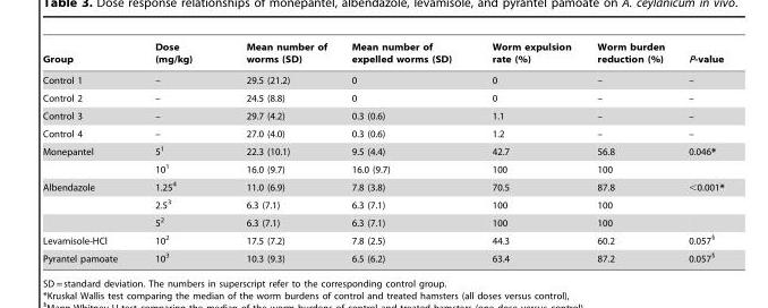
<table><thead><tr><td>Group</td><td>Dose (mg/kg)</td><td>Mean number of worms (SD)</td><td>Mean number of expelled worms (SD)</td><td>Worm expulsion rate (%)</td><td>Worm burden reduction (%)</td><td>P-value</td></tr></thead><tbody><tr><td>Control 1</td><td>–</td><td>29.5 (21.2)</td><td>0</td><td>0</td><td>–</td><td>–</td></tr><tr><td>Control 2</td><td>–</td><td>24.5 (8.8)</td><td>0</td><td>0</td><td>–</td><td>–</td></tr><tr><td>Control 3</td><td>–</td><td>29.7 (4.2)</td><td>0.3 (0.6)</td><td>1.1</td><td>–</td><td>–</td></tr><tr><td>Control 4</td><td>–</td><td>27.0 (4.0)</td><td>0.3 (0.6)</td><td>1.2</td><td>–</td><td>–</td></tr><tr><td rowspan="2">Monepantel</td><td>5<sup>1</sup></td><td>22.3 (10.1)</td><td>9.5 (4.4)</td><td>42.7</td><td>56.8</td><td>0.046*</td></tr><tr><td>10<sup>1</sup></td><td>16.0 (9.7)</td><td>16.0 (9.7)</td><td>100</td><td>100</td><td></td></tr><tr><td rowspan="3">Albendazole</td><td>1.25<sup>4</sup></td><td>11.0 (6.9)</td><td>7.8 (3.8)</td><td>70.5</td><td>87.8</td><td>&lt;0.001*</td></tr><tr><td>2.5<sup>3</sup></td><td>6.3 (7.1)</td><td>6.3 (7.1)</td><td>100</td><td>100</td><td></td></tr><tr><td>5<sup>2</sup></td><td>6.3 (7.1)</td><td>6.3 (7.1)</td><td>100</td><td>100</td><td></td></tr><tr><td>Levamisole-HCl</td><td>10<sup>2</sup></td><td>17.5 (7.2)</td><td>7.8 (2.5)</td><td>44.3</td><td>60.2</td><td>0.057§</td></tr><tr><td>Pyrantel pamoate</td><td>10<sup>3</sup></td><td>10.3 (9.3)</td><td>6.5 (6.2)</td><td>63.4</td><td>87.2</td><td>0.057§</td></tr></tbody></table>